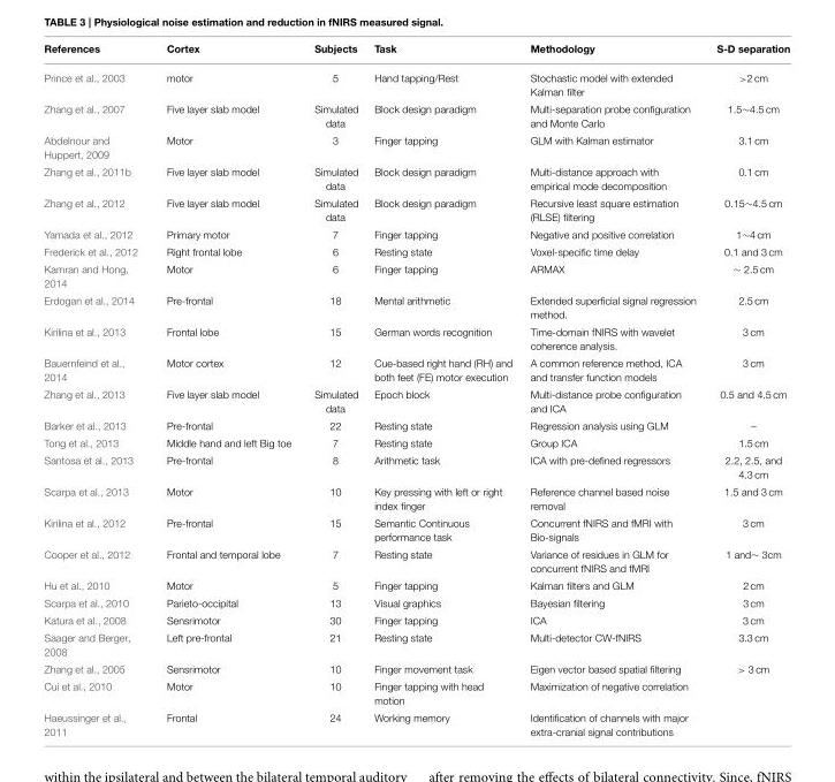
<table><thead><tr><td>References</td><td>Cortex</td><td>Subjects</td><td>Task</td><td>Methodology</td><td>S-D separation</td></tr></thead><tbody><tr><td>Prince et al., 2003</td><td>motor</td><td>5</td><td>Hand tapping/Rest</td><td>Stochastic model with extended Kalman filter</td><td>&gt;2 cm</td></tr><tr><td>Zhang et al., 2007</td><td>Five layer slab model</td><td>Simulated data</td><td>Block design paradigm</td><td>Multi-separation probe configuration and Monte Carlo</td><td>1.5∼4.5 cm</td></tr><tr><td>Abdelnour and Huppert, 2009</td><td>Motor</td><td>3</td><td>Finger tapping</td><td>GLM with Kalman estimator</td><td>3.1 cm</td></tr><tr><td>Zhang et al., 2011b</td><td>Five layer slab model</td><td>Simulated data</td><td>Block design paradigm</td><td>Multi-distance approach with empirical mode decomposition</td><td>0.1 cm</td></tr><tr><td>Zhang et al., 2012</td><td>Five layer slab model</td><td>Simulated data</td><td>Block design paradigm</td><td>Recursive least square estimation (RLSE) filtering</td><td>0.15∼4.5 cm</td></tr><tr><td>Yamada et al., 2012</td><td>Primary motor</td><td>7</td><td>Finger tapping</td><td>Negative and positive correlation</td><td>1∼4 cm</td></tr><tr><td>Frederick et al., 2012</td><td>Right frontal lobe</td><td>6</td><td>Resting state</td><td>Voxel-specific time delay</td><td>0.1 and 3 cm</td></tr><tr><td>Kamran and Hong, 2014</td><td>Motor</td><td>6</td><td>Finger tapping</td><td>ARMAX</td><td>∼ 2.5 cm</td></tr><tr><td>Erdogan et al., 2014</td><td>Pre-frontal</td><td>18</td><td>Mental arithmetic</td><td>Extended superficial signal regression method.</td><td>2.5 cm</td></tr><tr><td>Kirilina et al., 2013</td><td>Frontal lobe</td><td>15</td><td>German words recognition</td><td>Time-domain fNIRS with wavelet coherence analysis.</td><td>3 cm</td></tr><tr><td>Bauernfeind et al., 2014</td><td>Motor cortex</td><td>12</td><td>Cue-based right hand (RH) and both feet (FE) motor execution</td><td>A common reference method, ICA and transfer function models</td><td>3 cm</td></tr><tr><td>Zhang et al., 2013</td><td>Five layer slab model</td><td>Simulated data</td><td>Epoch block</td><td>Multi-distance probe configuration and ICA</td><td>0.5 and 4.5 cm</td></tr><tr><td>Barker et al., 2013</td><td>Pre-frontal</td><td>22</td><td>Resting state</td><td>Regression analysis using GLM</td><td>–</td></tr><tr><td>Tong et al., 2013</td><td>Middle hand and left Big toe</td><td>7</td><td>Resting state</td><td>Group ICA</td><td>1.5 cm</td></tr><tr><td>Santosa et al., 2013</td><td>Pre-frontal</td><td>8</td><td>Arithmetic task</td><td>ICA with pre-defined regressors</td><td>2.2, 2.5, and 4.3 cm</td></tr><tr><td>Scarpa et al., 2013</td><td>Motor</td><td>10</td><td>Key pressing with left or right index finger</td><td>Reference channel based noise removal</td><td>1.5 and 3 cm</td></tr><tr><td>Kirilina et al., 2012</td><td>Pre-frontal</td><td>15</td><td>Semantic Continuous performance task</td><td>Concurrent fNIRS and fMRI with Bio-signals</td><td>3 cm</td></tr><tr><td>Cooper et al., 2012</td><td>Frontal and temporal lobe</td><td>7</td><td>Resting state</td><td>Variance of residues in GLM for concurrent fNIRS and fMRI</td><td>1 and∼ 3cm</td></tr><tr><td>Hu et al., 2010</td><td>Motor</td><td>5</td><td>Finger tapping</td><td>Kalman filters and GLM</td><td>2 cm</td></tr><tr><td>Scarpa et al., 2010</td><td>Parieto-occipital</td><td>13</td><td>Visual graphics</td><td>Bayesian filtering</td><td>3 cm</td></tr><tr><td>Katura et al., 2008</td><td>Sensrimotor</td><td>30</td><td>Finger tapping</td><td>ICA</td><td>3 cm</td></tr><tr><td>Saager and Berger, 2008</td><td>Left pre-frontal</td><td>21</td><td>Resting state</td><td>Multi-detector CW-fNIRS</td><td>3.3 cm</td></tr><tr><td>Zhang et al., 2005</td><td>Sensrimotor</td><td>10</td><td>Finger movement task</td><td>Eigen vector based spatial filtering</td><td>&gt; 3 cm</td></tr><tr><td>Cui et al., 2010</td><td>Motor</td><td>10</td><td>Finger tapping with head motion</td><td>Maximization of negative correlation</td><td></td></tr><tr><td>Haeussinger et al., 2011</td><td>Frontal</td><td>24</td><td>Working memory</td><td>Identification of channels with major extra-cranial signal contributions</td><td></td></tr></tbody></table>